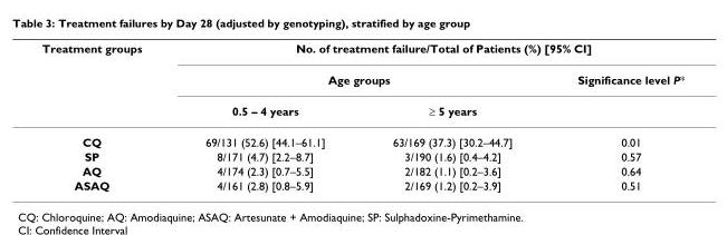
<table><thead><tr><td rowspan="3">Treatment groups</td><td colspan="3">No. of treatment failure/Total of Patients (%) [95% CI]</td></tr><tr><td colspan="2">Age groups</td><td rowspan="2">Significance level P*</td></tr><tr><td>0.5 – 4 years</td><td>≥ 5 years</td></tr></thead><tbody><tr><td>CQ</td><td>69/131 (52.6) [44.1–61.1]</td><td>63/169 (37.3) [30.2–44.7]</td><td>0.01</td></tr><tr><td>SP</td><td>8/171 (4.7) [2.2–8.7]</td><td>3/190 (1.6) [0.4–4.2]</td><td>0.57</td></tr><tr><td>AQ</td><td>4/174 (2.3) [0.7–5.5]</td><td>2/182 (1.1) [0.2–3.6]</td><td>0.64</td></tr><tr><td>ASAQ</td><td>4/161 (2.8) [0.8–5.9]</td><td>2/169 (1.2) [0.2–3.9]</td><td>0.51</td></tr></tbody></table>